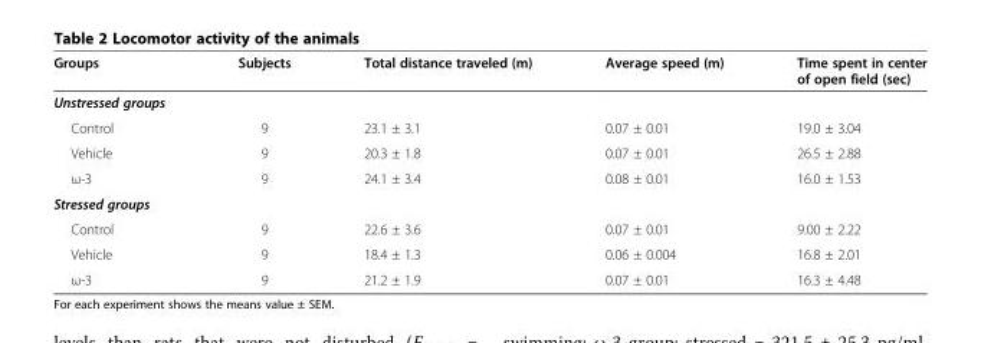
<table><thead><tr><td>Groups</td><td>Subjects</td><td>Total distance traveled (m)</td><td>Average speed (m)</td><td>Time spent in center of open field (sec)</td></tr></thead><tbody><tr><td colspan="5">Unstressed groups</td></tr><tr><td>Control</td><td>9</td><td>23.1 ± 3.1</td><td>0.07 ± 0.01</td><td>19.0 ± 3.04</td></tr><tr><td>Vehicle</td><td>9</td><td>20.3 ± 1.8</td><td>0.07 ± 0.01</td><td>26.5 ± 2.88</td></tr><tr><td>ω-3</td><td>9</td><td>24.1 ± 3.4</td><td>0.08 ± 0.01</td><td>16.0 ± 1.53</td></tr><tr><td colspan="5">Stressed groups</td></tr><tr><td>Control</td><td>9</td><td>22.6 ± 3.6</td><td>0.07 ± 0.01</td><td>9.00 ± 2.22</td></tr><tr><td>Vehicle</td><td>9</td><td>18.4 ± 1.3</td><td>0.06 ± 0.004</td><td>16.8 ± 2.01</td></tr><tr><td>ω-3</td><td>9</td><td>21.2 ± 1.9</td><td>0.07 ± 0.01</td><td>16.3 ± 4.48</td></tr></tbody></table>